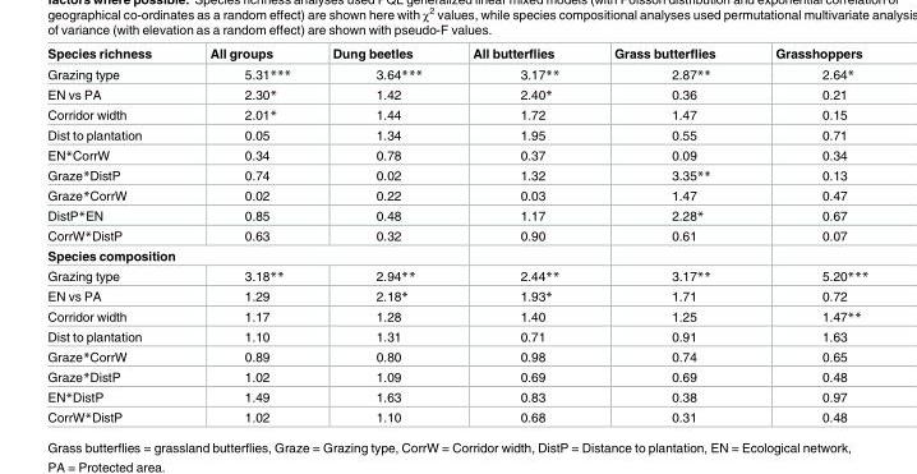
<table><thead><tr><td>Species richness</td><td>All groups</td><td>Dung beetles</td><td>All butterflies</td><td>Grass butterflies</td><td>Grasshoppers</td></tr></thead><tbody><tr><td>Grazing type</td><td>5.31***</td><td>3.64***</td><td>3.17**</td><td>2.87**</td><td>2.64*</td></tr><tr><td>EN vs PA</td><td>2.30*</td><td>1.42</td><td>2.40*</td><td>0.36</td><td>0.21</td></tr><tr><td>Corridor width</td><td>2.01*</td><td>1.44</td><td>1.72</td><td>1.47</td><td>0.15</td></tr><tr><td>Dist to plantation</td><td>0.05</td><td>1.34</td><td>1.95</td><td>0.55</td><td>0.71</td></tr><tr><td>EN*CorrW</td><td>0.34</td><td>0.78</td><td>0.37</td><td>0.09</td><td>0.34</td></tr><tr><td>Graze*DistP</td><td>0.74</td><td>0.02</td><td>1.32</td><td>3.35**</td><td>0.13</td></tr><tr><td>Graze*CorrW</td><td>0.02</td><td>0.22</td><td>0.03</td><td>1.47</td><td>0.47</td></tr><tr><td>DistP*EN</td><td>0.85</td><td>0.48</td><td>1.17</td><td>2.28*</td><td>0.67</td></tr><tr><td>CorrW*DistP</td><td>0.63</td><td>0.32</td><td>0.90</td><td>0.61</td><td>0.07</td></tr><tr><td colspan="6">Species composition</td></tr><tr><td>Grazing type</td><td>3.18**</td><td>2.94**</td><td>2.44**</td><td>3.17**</td><td>5.20***</td></tr><tr><td>EN vs PA</td><td>1.29</td><td>2.18*</td><td>1.93*</td><td>1.71</td><td>0.72</td></tr><tr><td>Corridor width</td><td>1.17</td><td>1.28</td><td>1.40</td><td>1.25</td><td>1.47**</td></tr><tr><td>Dist to plantation</td><td>1.10</td><td>1.31</td><td>0.71</td><td>0.91</td><td>1.63</td></tr><tr><td>Graze*CorrW</td><td>0.89</td><td>0.80</td><td>0.98</td><td>0.74</td><td>0.65</td></tr><tr><td>Graze*DistP</td><td>1.02</td><td>1.09</td><td>0.69</td><td>0.69</td><td>0.48</td></tr><tr><td>EN*DistP</td><td>1.49</td><td>1.63</td><td>0.83</td><td>0.38</td><td>0.97</td></tr><tr><td>CorrW*DistP</td><td>1.02</td><td>1.10</td><td>0.68</td><td>0.31</td><td>0.48</td></tr></tbody></table>